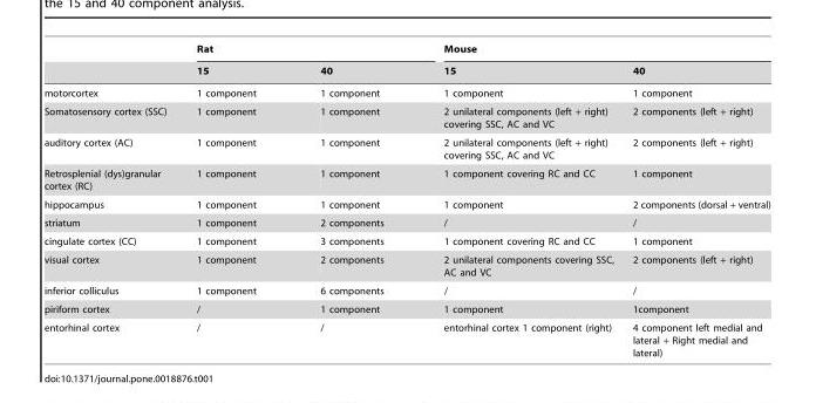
<table><thead><tr><td rowspan="2"></td><td colspan="2">Rat</td><td colspan="2">Mouse</td></tr><tr><td>15</td><td>40</td><td>15</td><td>40</td></tr></thead><tbody><tr><td>motorcortex</td><td>1 component</td><td>1 component</td><td>1 component</td><td>1 component</td></tr><tr><td>Somatosensory cortex (SSC)</td><td>1 component</td><td>1 component</td><td>2 unilateral components (left + right) covering SSC, AC and VC</td><td>2 components (left + right)</td></tr><tr><td>auditory cortex (AC)</td><td>1 component</td><td>1 component</td><td>2 unilateral components (left + right) covering SSC, AC and VC</td><td>2 components (left + right)</td></tr><tr><td>Retrosplenial (dys)granular cortex (RC)</td><td>1 component</td><td>1 component</td><td>1 component covering RC and CC</td><td>1 component</td></tr><tr><td>hippocampus</td><td>1 component</td><td>1 component</td><td>1 component</td><td>2 components (dorsal + ventral)</td></tr><tr><td>striatum</td><td>1 component</td><td>2 components</td><td>/</td><td>/</td></tr><tr><td>cingulate cortex (CC)</td><td>1 component</td><td>3 components</td><td>1 component covering RC and CC</td><td>1 component</td></tr><tr><td>visual cortex</td><td>1 component</td><td>2 components</td><td>2 unilateral components covering SSC, AC and VC</td><td>2 components (left + right)</td></tr><tr><td>inferior colliculus</td><td>1 component</td><td>6 components</td><td>/</td><td>/</td></tr><tr><td>piriform cortex</td><td>/</td><td>1 component</td><td>1 component</td><td>1component</td></tr><tr><td>entorhinal cortex</td><td>/</td><td>/</td><td>entorhinal cortex 1 component (right)</td><td>4 component left medial and lateral + Right medial and lateral)</td></tr></tbody></table>